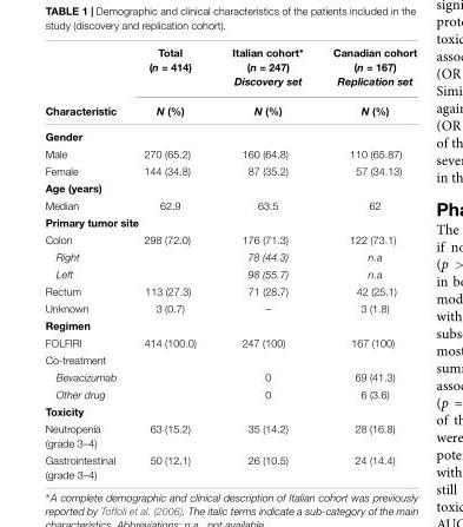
<table><thead><tr><td rowspan="2">Characteristic</td><td rowspan="2">Total (n = 414) N (%)</td><td rowspan="2">Italian cohort∗ (n = 247) Discovery set N (%)</td><td rowspan="2">Canadian cohort (n = 167) Replication set N (%)</td></tr><tr></tr></thead><tbody><tr><td colspan="4">Gender</td></tr><tr><td>Male</td><td>270 (65.2)</td><td>160 (64.8)</td><td>110 (65.87)</td></tr><tr><td>Female</td><td>144 (34.8)</td><td>87 (35.2)</td><td>57 (34.13)</td></tr><tr><td colspan="4">Age (years)</td></tr><tr><td>Median</td><td>62.9</td><td>63.5</td><td>62</td></tr><tr><td colspan="4">Primary tumor site</td></tr><tr><td>Colon</td><td>298 (72.0)</td><td>176 (71.3)</td><td>122 (73.1)</td></tr><tr><td>Right</td><td></td><td>78 (44.3)</td><td>n.a</td></tr><tr><td>Left</td><td></td><td>98 (55.7)</td><td>n.a</td></tr><tr><td>Rectum</td><td>113 (27.3)</td><td>71 (28.7)</td><td>42 (25.1)</td></tr><tr><td>Unknown</td><td>3 (0.7)</td><td>–</td><td>3 (1.8)</td></tr><tr><td colspan="4">Regimen</td></tr><tr><td>FOLFIRI</td><td>414 (100.0)</td><td>247 (100)</td><td>167 (100)</td></tr><tr><td colspan="4">Co-treatment</td></tr><tr><td>Bevacizumab</td><td></td><td>0</td><td>69 (41.3)</td></tr><tr><td>Other drug</td><td></td><td>0</td><td>6 (3.6)</td></tr><tr><td colspan="4">Toxicity</td></tr><tr><td>Neutropenia (grade 3–4)</td><td>63 (15.2)</td><td>35 (14.2)</td><td>28 (16.8)</td></tr><tr><td>Gastrointestinal (grade 3–4)</td><td>50 (12.1)</td><td>26 (10.5)</td><td>24 (14.4)</td></tr></tbody></table>